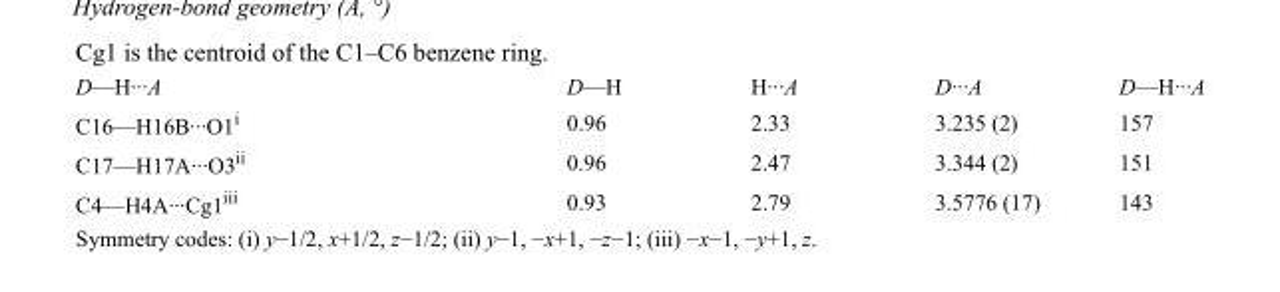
<table><tbody><tr><td>D—H···A</td><td>D—H</td><td>H···A</td><td>D···A</td><td>D—H···A</td></tr><tr><td>C16—H16B···O1<sup>i</sup></td><td>0.96</td><td>2.33</td><td>3.235 (2)</td><td>157</td></tr><tr><td>C17—H17A···O3<sup>ii</sup></td><td>0.96</td><td>2.47</td><td>3.344 (2)</td><td>151</td></tr><tr><td>C4—H4A···Cg1<sup>iii</sup></td><td>0.93</td><td>2.79</td><td>3.5776 (17)</td><td>143</td></tr></tbody></table>